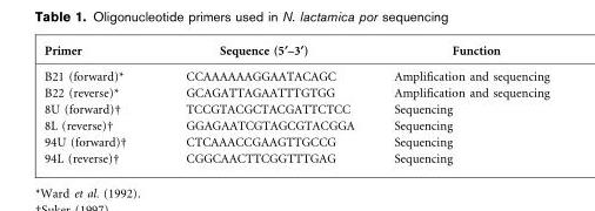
<table><thead><tr><td>Primer</td><td>Sequence (5§–3§)</td><td>Function</td></tr></thead><tbody><tr><td>B21 (forward)*</td><td>CCAAAAAAGGAATACAGC</td><td>Amplification and sequencing</td></tr><tr><td>B22 (reverse)*</td><td>GCAGATTAGAATTTGTGG</td><td>Amplification and sequencing</td></tr><tr><td>8U (forward)†</td><td>TCCGTACGCTACGATTCTCC</td><td>Sequencing</td></tr><tr><td>8L (reverse)†</td><td>GGAGAATCGTAGCGTACGGA</td><td>Sequencing</td></tr><tr><td>94U (forward)†</td><td>CTCAAACCGAAGTTGCCG</td><td>Sequencing</td></tr><tr><td>94L (reverse)†</td><td>CGGCAACTTCGGTTTGAG</td><td>Sequencing</td></tr></tbody></table>